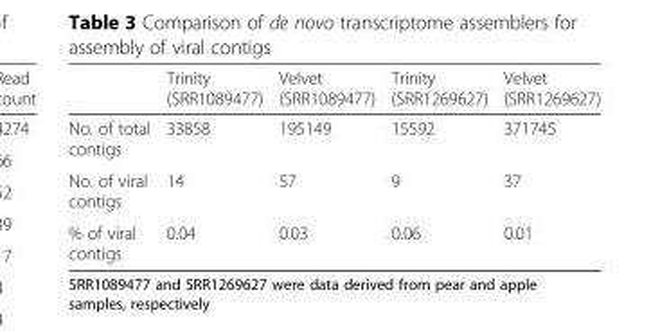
<table><thead><tr><td></td><td>Trinity (SRR1089477)</td><td>Velvet (SRR1089477)</td><td>Trinity (SRR1269627)</td><td>Velvet (SRR1269627)</td></tr></thead><tbody><tr><td>No. of total contigs</td><td>33858</td><td>195149</td><td>15592</td><td>371745</td></tr><tr><td>No. of viral contigs</td><td>14</td><td>57</td><td>9</td><td>37</td></tr><tr><td>% of viral contigs</td><td>0.04</td><td>0.03</td><td>0.06</td><td>0.01</td></tr></tbody></table>